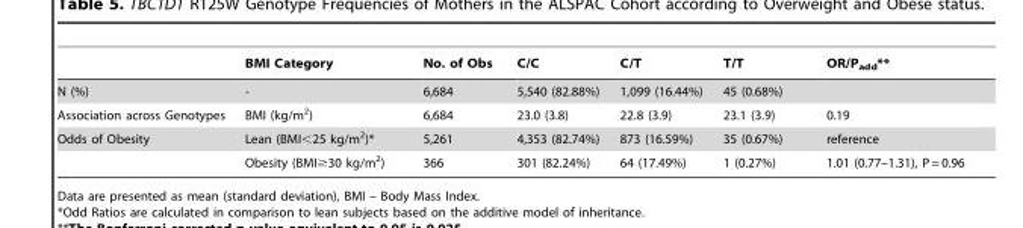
<table><thead><tr><td></td><td>BMI Category</td><td>No. of Obs</td><td>C/C</td><td>C/T</td><td>T/T</td><td>OR/P<sub>add</sub>**</td></tr></thead><tbody><tr><td>N (%)</td><td>-</td><td>6,684</td><td>5,540 (82.88%)</td><td>1,099 (16.44%)</td><td>45 (0.68%)</td><td></td></tr><tr><td>Association across Genotypes</td><td>BMI (kg/m<sup>2</sup>)</td><td>6,684</td><td>23.0 (3.8)</td><td>22.8 (3.9)</td><td>23.1 (3.9)</td><td>0.19</td></tr><tr><td rowspan="2">Odds of Obesity</td><td>Lean (BMI&lt;25 kg/m<sup>2</sup>)*</td><td>5,261</td><td>4,353 (82.74%)</td><td>873 (16.59%)</td><td>35 (0.67%)</td><td>reference</td></tr><tr><td>Obesity (BMI≥30 kg/m<sup>2</sup>)</td><td>366</td><td>301 (82.24%)</td><td>64 (17.49%)</td><td>1 (0.27%)</td><td>1.01 (0.77–1.31), P = 0.96</td></tr></tbody></table>